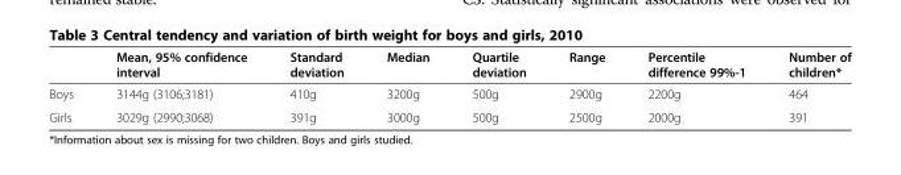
<table><thead><tr><td></td><td>Mean, 95% confidence interval</td><td>Standard deviation</td><td>Median</td><td>Quartile deviation</td><td>Range</td><td>Percentile difference 99%-1</td><td>Number of children*</td></tr></thead><tbody><tr><td>Boys</td><td>3144g (3106;3181)</td><td>410g</td><td>3200g</td><td>500g</td><td>2900g</td><td>2200g</td><td>464</td></tr><tr><td>Girls</td><td>3029g (2990;3068)</td><td>391g</td><td>3000g</td><td>500g</td><td>2500g</td><td>2000g</td><td>391</td></tr></tbody></table>